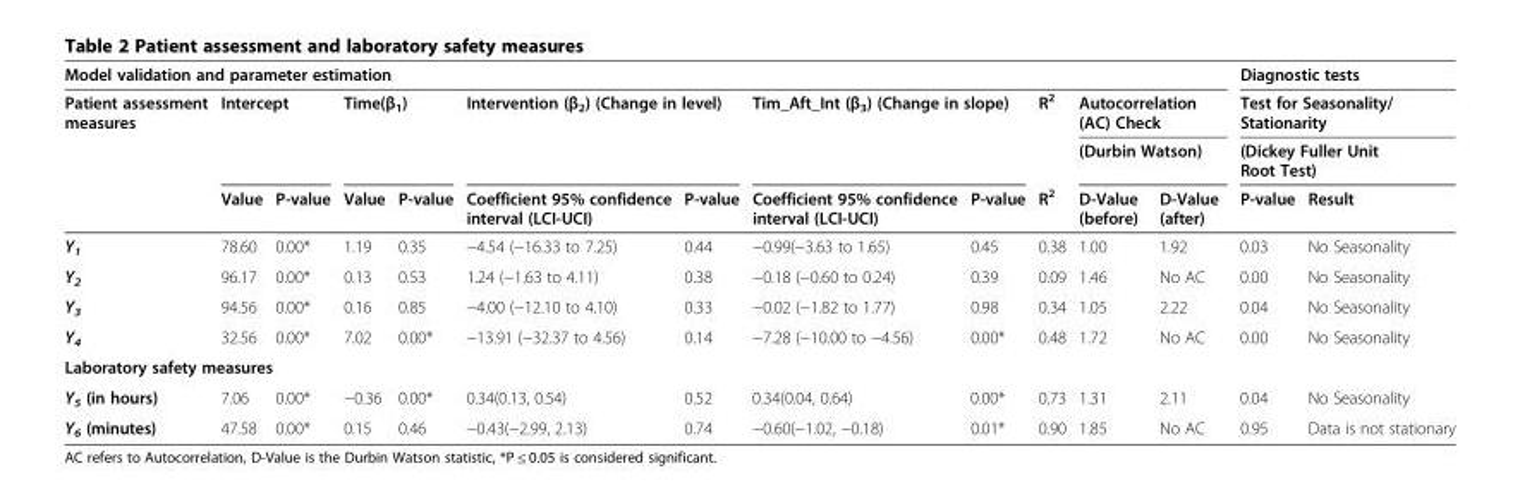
<table><thead><tr><td colspan="12">Model validation and parameter estimation</td><td rowspan="3" colspan="2">Diagnostic tests Test for Seasonality/ Stationarity (Dickey Fuller Unit Root Test)</td></tr><tr><td rowspan="3">Patient assessment measures</td><td rowspan="2" colspan="2">Intercept</td><td rowspan="2" colspan="2">Time(β<sub>1</sub>)</td><td rowspan="2" colspan="2">Intervention (β<sub>2</sub>) (Change in level)</td><td rowspan="2" colspan="2">Tim_Aft_Int (β<sub>3</sub>) (Change in slope)</td><td rowspan="3">R<sup>2</sup> R<sup>2</sup></td><td rowspan="2" colspan="2">Autocorrelation (AC) Check (Durbin Watson)</td></tr><tr></tr><tr><td>Value</td><td>P-value</td><td>Value</td><td>P-value</td><td>Coefficient 95% confidence interval (LCI-UCI)</td><td>P-value</td><td>Coefficient 95% confidence interval (LCI-UCI)</td><td>P-value</td><td>D-Value (before)</td><td>D-Value (after)</td><td>P-value</td><td>Result</td></tr></thead><tbody><tr><td>Y<sub>1</sub></td><td>78.60</td><td>0.00*</td><td>1.19</td><td>0.35</td><td>−4.54 (−16.33 to 7.25)</td><td>0.44</td><td>−0.99(−3.63 to 1.65)</td><td>0.45</td><td>0.38</td><td>1.00</td><td>1.92</td><td>0.03</td><td>No Seasonality</td></tr><tr><td>Y<sub>2</sub></td><td>96.17</td><td>0.00*</td><td>0.13</td><td>0.53</td><td>1.24 (−1.63 to 4.11)</td><td>0.38</td><td>−0.18 (−0.60 to 0.24)</td><td>0.39</td><td>0.09</td><td>1.46</td><td>No AC</td><td>0.00</td><td>No Seasonality</td></tr><tr><td>Y<sub>3</sub></td><td>94.56</td><td>0.00*</td><td>0.16</td><td>0.85</td><td>−4.00 (−12.10 to 4.10)</td><td>0.33</td><td>−0.02 (−1.82 to 1.77)</td><td>0.98</td><td>0.34</td><td>1.05</td><td>2.22</td><td>0.04</td><td>No Seasonality</td></tr><tr><td>Y<sub>4</sub></td><td>32.56</td><td>0.00*</td><td>7.02</td><td>0.00*</td><td>−13.91 (−32.37 to 4.56)</td><td>0.14</td><td>−7.28 (−10.00 to −4.56)</td><td>0.00*</td><td>0.48</td><td>1.72</td><td>No AC</td><td>0.00</td><td>No Seasonality</td></tr><tr><td colspan="14">Laboratory safety measures</td></tr><tr><td>Y<sub>5</sub> (in hours)</td><td>7.06</td><td>0.00*</td><td>−0.36</td><td>0.00*</td><td>0.34(0.13, 0.54)</td><td>0.52</td><td>0.34(0.04, 0.64)</td><td>0.00*</td><td>0.73</td><td>1.31</td><td>2.11</td><td>0.04</td><td>No Seasonality</td></tr><tr><td>Y<sub>6</sub> (minutes)</td><td>47.58</td><td>0.00*</td><td>0.15</td><td>0.46</td><td>−0.43(−2.99, 2.13)</td><td>0.74</td><td>−0.60(−1.02, −0.18)</td><td>0.01*</td><td>0.90</td><td>1.85</td><td>No AC</td><td>0.95</td><td>Data is not stationary</td></tr></tbody></table>